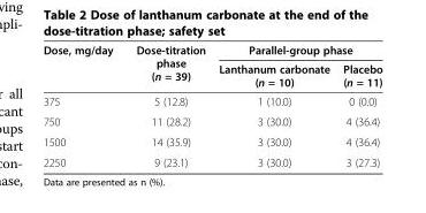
<table><thead><tr><td rowspan="2">Dose, mg/day</td><td rowspan="2">Dose-titration phase (n = 39)</td><td colspan="2">Parallel-group phase</td></tr><tr><td>Lanthanum carbonate (n = 10)</td><td>Placebo (n = 11)</td></tr></thead><tbody><tr><td>375</td><td>5 (12.8)</td><td>1 (10.0)</td><td>0 (0.0)</td></tr><tr><td>750</td><td>11 (28.2)</td><td>3 (30.0)</td><td>4 (36.4)</td></tr><tr><td>1500</td><td>14 (35.9)</td><td>3 (30.0)</td><td>4 (36.4)</td></tr><tr><td>2250</td><td>9 (23.1)</td><td>3 (30.0)</td><td>3 (27.3)</td></tr></tbody></table>